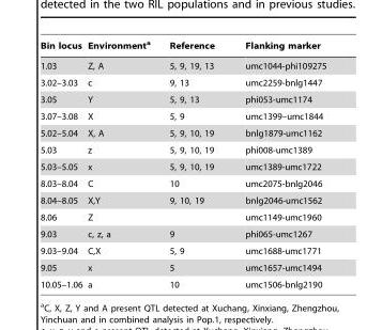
<table><thead><tr><td>Bin locus</td><td>Environment<sup>a</sup></td><td>Reference</td><td>Flanking marker</td></tr></thead><tbody><tr><td>1.03</td><td>Z, A</td><td>5, 9, 19, 13</td><td>umc1044-phi109275</td></tr><tr><td>3.02–3.03</td><td>c</td><td>9, 13</td><td>umc2259-bnlg1447</td></tr><tr><td>3.05</td><td>Y</td><td>5, 9, 13</td><td>phi053-umc1174</td></tr><tr><td>3.07–3.08</td><td>X</td><td>5, 9</td><td>umc1399–umc1844</td></tr><tr><td>5.02–5.04</td><td>X, A</td><td>5, 9, 10, 19</td><td>bnlg1879-umc1162</td></tr><tr><td>5.03</td><td>z</td><td>5, 9, 10, 19</td><td>phi008-umc1389</td></tr><tr><td>5.03–5.05</td><td>x</td><td>5, 9, 10, 19</td><td>umc1389-umc1722</td></tr><tr><td>8.03–8.04</td><td>C</td><td>10</td><td>umc2075-bnlg2046</td></tr><tr><td>8.04–8.05</td><td>X,Y</td><td>9, 10, 19</td><td>bnlg2046-umc1562</td></tr><tr><td>8.06</td><td>Z</td><td></td><td>umc1149-umc1960</td></tr><tr><td>9.03</td><td>c, z, a</td><td>9</td><td>phi065-umc1267</td></tr><tr><td>9.03–9.04</td><td>C,X</td><td>5, 9</td><td>umc1688-umc1771</td></tr><tr><td>9.05</td><td>x</td><td>5</td><td>umc1657-umc1494</td></tr><tr><td>10.05–1.06</td><td>a</td><td>10</td><td>umc1506-bnlg2190</td></tr></tbody></table>